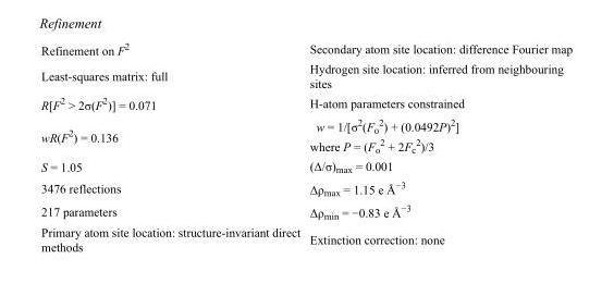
<table><tbody><tr><td>Refinement on F<sup>2</sup></td><td>Secondary atom site location: difference Fourier map</td></tr><tr><td>Least-squares matrix: full</td><td>Hydrogen site location: inferred from neighbouring sites</td></tr><tr><td>R[F<sup>2</sup> &gt; 2σ(F<sup>2</sup>)] = 0.071</td><td>H-atom parameters constrained</td></tr><tr><td>wR(F<sup>2</sup>) = 0.136</td><td>w = 1/[σ<sup>2</sup>(F<sub>o</sub> <sup>2</sup>) + (0.0492P)<sup>2</sup>] where P = (F<sub>o</sub> <sup>2</sup> + 2F<sub>c</sub> <sup>2</sup>)/3</td></tr><tr><td>S = 1.05</td><td>(Δ/σ)<sub>max</sub> = 0.001</td></tr><tr><td>3476 reflections</td><td>Δρ<sub>max</sub> = 1.15 e Å<sup>−3</sup></td></tr><tr><td>217 parameters</td><td>Δρ<sub>min</sub> = −0.83 e Å<sup>−3</sup></td></tr><tr><td>Primary atom site location: structure-invariant direct methods</td><td>Extinction correction: none</td></tr></tbody></table>